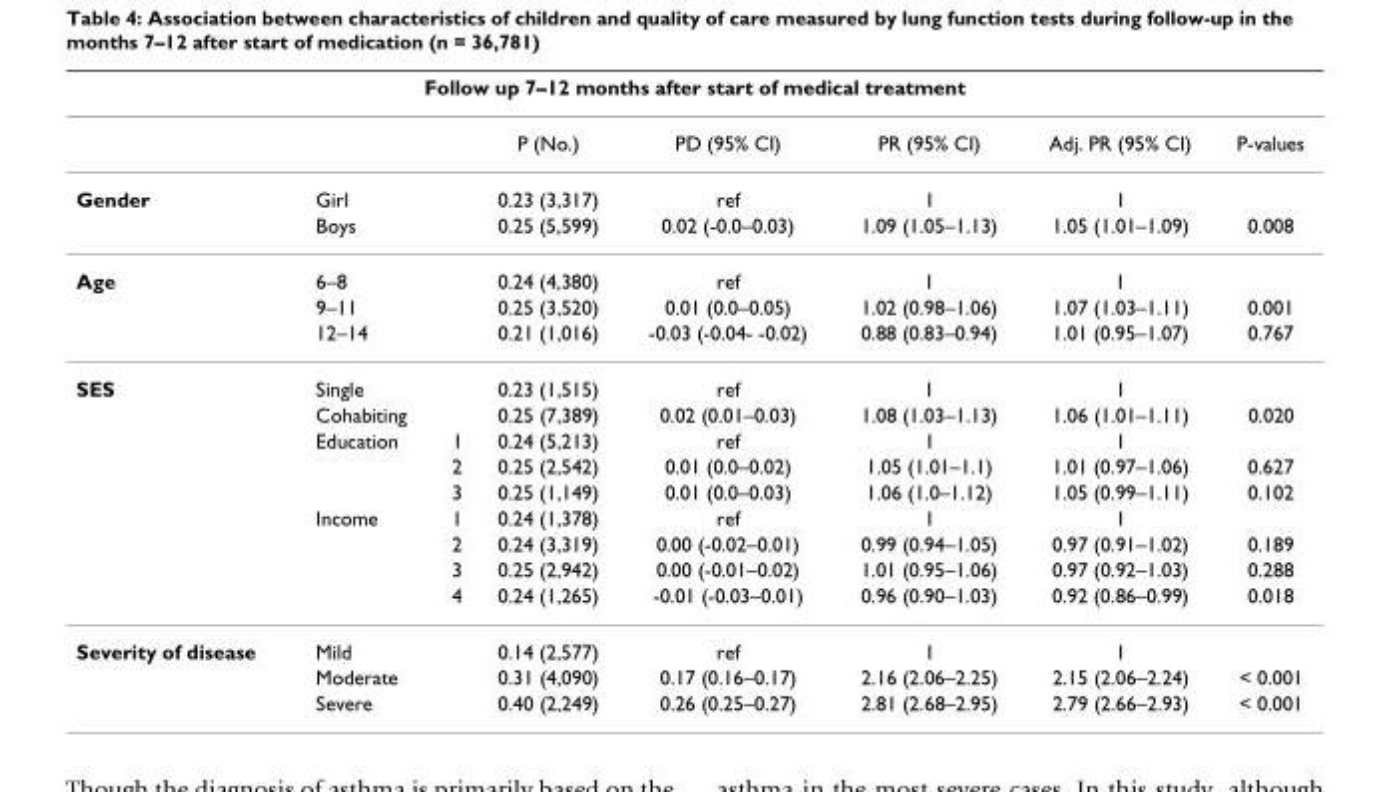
<table><thead><tr><td colspan="8">Follow up 7–12 months after start of medical treatment</td></tr><tr><td></td><td></td><td></td><td>P (No.)</td><td>PD (95% CI)</td><td>PR (95% CI)</td><td>Adj. PR (95% CI)</td><td>P-values</td></tr></thead><tbody><tr><td rowspan="2">Gender</td><td>Girl</td><td></td><td>0.23 (3,317)</td><td>ref</td><td>1</td><td>1</td><td></td></tr><tr><td>Boys</td><td></td><td>0.25 (5,599)</td><td>0.02 (-0.0–0.03)</td><td>1.09 (1.05–1.13)</td><td>1.05 (1.01–1.09)</td><td>0.008</td></tr><tr><td rowspan="3">Age</td><td>6–8</td><td></td><td>0.24 (4,380)</td><td>ref</td><td>1</td><td>1</td><td></td></tr><tr><td>9–11</td><td></td><td>0.25 (3,520)</td><td>0.01 (0.0–0.05)</td><td>1.02 (0.98–1.06)</td><td>1.07 (1.03–1.11)</td><td>0.001</td></tr><tr><td>12–14</td><td></td><td>0.21 (1,016)</td><td>-0.03 (-0.04- -0.02)</td><td>0.88 (0.83–0.94)</td><td>1.01 (0.95–1.07)</td><td>0.767</td></tr><tr><td rowspan="9">SES</td><td>Single</td><td></td><td>0.23 (1,515)</td><td>ref</td><td>1</td><td>1</td><td></td></tr><tr><td>Cohabiting</td><td></td><td>0.25 (7,389)</td><td>0.02 (0.01–0.03)</td><td>1.08 (1.03–1.13)</td><td>1.06 (1.01–1.11)</td><td>0.020</td></tr><tr><td>Education</td><td>1</td><td>0.24 (5,213)</td><td>ref</td><td>1</td><td>1</td><td></td></tr><tr><td></td><td>2</td><td>0.25 (2,542)</td><td>0.01 (0.0–0.02)</td><td>1.05 (1.01–1.1)</td><td>1.01 (0.97–1.06)</td><td>0.627</td></tr><tr><td></td><td>3</td><td>0.25 (1,149)</td><td>0.01 (0.0–0.03)</td><td>1.06 (1.0–1.12)</td><td>1.05 (0.99–1.11)</td><td>0.102</td></tr><tr><td>Income</td><td>1</td><td>0.24 (1,378)</td><td>ref</td><td>1</td><td>1</td><td></td></tr><tr><td></td><td>2</td><td>0.24 (3,319)</td><td>0.00 (-0.02–0.01)</td><td>0.99 (0.94–1.05)</td><td>0.97 (0.91–1.02)</td><td>0.189</td></tr><tr><td></td><td>3</td><td>0.25 (2,942)</td><td>0.00 (-0.01–0.02)</td><td>1.01 (0.95–1.06)</td><td>0.97 (0.92–1.03)</td><td>0.288</td></tr><tr><td></td><td>4</td><td>0.24 (1,265)</td><td>-0.01 (-0.03–0.01)</td><td>0.96 (0.90–1.03)</td><td>0.92 (0.86–0.99)</td><td>0.018</td></tr><tr><td rowspan="3">Severity of disease</td><td>Mild</td><td></td><td>0.14 (2,577)</td><td>ref</td><td>1</td><td>1</td><td></td></tr><tr><td>Moderate</td><td></td><td>0.31 (4,090)</td><td>0.17 (0.16–0.17)</td><td>2.16 (2.06–2.25)</td><td>2.15 (2.06–2.24)</td><td>&lt; 0.001</td></tr><tr><td>Severe</td><td></td><td>0.40 (2,249)</td><td>0.26 (0.25–0.27)</td><td>2.81 (2.68–2.95)</td><td>2.79 (2.66–2.93)</td><td>&lt; 0.001</td></tr></tbody></table>